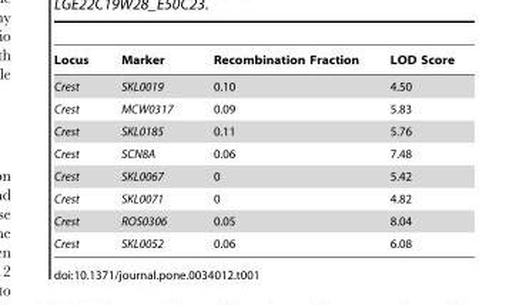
<table><thead><tr><td>Locus</td><td>Marker</td><td>Recombination Fraction</td><td>LOD Score</td></tr></thead><tbody><tr><td>Crest</td><td>SKL0019</td><td>0.10</td><td>4.50</td></tr><tr><td>Crest</td><td>MCW0317</td><td>0.09</td><td>5.83</td></tr><tr><td>Crest</td><td>SKL0185</td><td>0.11</td><td>5.76</td></tr><tr><td>Crest</td><td>SCN8A</td><td>0.06</td><td>7.48</td></tr><tr><td>Crest</td><td>SKL0067</td><td>0</td><td>5.42</td></tr><tr><td>Crest</td><td>SKL0071</td><td>0</td><td>4.82</td></tr><tr><td>Crest</td><td>ROS0306</td><td>0.05</td><td>8.04</td></tr><tr><td>Crest</td><td>SKL0052</td><td>0.06</td><td>6.08</td></tr></tbody></table>